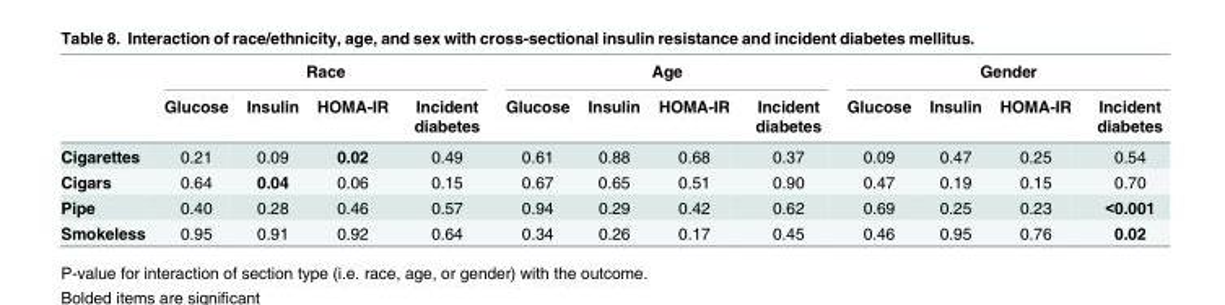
<table><thead><tr><td rowspan="2"></td><td colspan="4">Race</td><td colspan="4">Age</td><td colspan="4">Gender</td></tr><tr><td>Glucose</td><td>Insulin</td><td>HOMA-IR</td><td>Incident diabetes</td><td>Glucose</td><td>Insulin</td><td>HOMA-IR</td><td>Incident diabetes</td><td>Glucose</td><td>Insulin</td><td>HOMA-IR</td><td>Incident diabetes</td></tr></thead><tbody><tr><td>Cigarettes</td><td>0.21</td><td>0.09</td><td>0.02</td><td>0.49</td><td>0.61</td><td>0.88</td><td>0.68</td><td>0.37</td><td>0.09</td><td>0.47</td><td>0.25</td><td>0.54</td></tr><tr><td>Cigars</td><td>0.64</td><td>0.04</td><td>0.06</td><td>0.15</td><td>0.67</td><td>0.65</td><td>0.51</td><td>0.90</td><td>0.47</td><td>0.19</td><td>0.15</td><td>0.70</td></tr><tr><td>Pipe</td><td>0.40</td><td>0.28</td><td>0.46</td><td>0.57</td><td>0.94</td><td>0.29</td><td>0.42</td><td>0.62</td><td>0.69</td><td>0.25</td><td>0.23</td><td>&lt;0.001</td></tr><tr><td>Smokeless</td><td>0.95</td><td>0.91</td><td>0.92</td><td>0.64</td><td>0.34</td><td>0.26</td><td>0.17</td><td>0.45</td><td>0.46</td><td>0.95</td><td>0.76</td><td>0.02</td></tr></tbody></table>